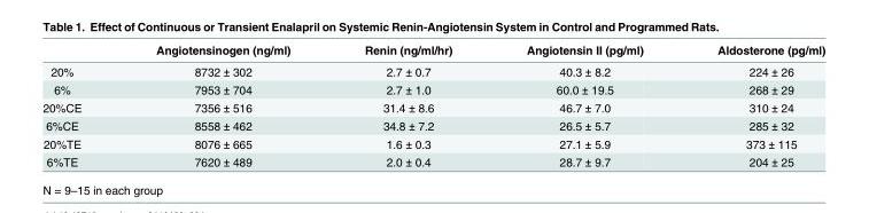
<table><thead><tr><td></td><td>Angiotensinogen (ng/ml)</td><td>Renin (ng/ml/hr)</td><td>Angiotensin II (pg/ml)</td><td>Aldosterone (pg/ml)</td></tr></thead><tbody><tr><td>20%</td><td>8732 ± 302</td><td>2.7 ± 0.7</td><td>40.3 ± 8.2</td><td>224 ± 26</td></tr><tr><td>6%</td><td>7953 ± 704</td><td>2.7 ± 1.0</td><td>60.0 ± 19.5</td><td>268 ± 29</td></tr><tr><td>20%CE</td><td>7356 ± 516</td><td>31.4 ± 8.6</td><td>46.7 ± 7.0</td><td>310 ± 24</td></tr><tr><td>6%CE</td><td>8558 ± 462</td><td>34.8 ± 7.2</td><td>26.5 ± 5.7</td><td>285 ± 32</td></tr><tr><td>20%TE</td><td>8076 ± 665</td><td>1.6 ± 0.3</td><td>27.1 ± 5.9</td><td>373 ± 115</td></tr><tr><td>6%TE</td><td>7620 ± 489</td><td>2.0 ± 0.4</td><td>28.7 ± 9.7</td><td>204 ± 25</td></tr></tbody></table>